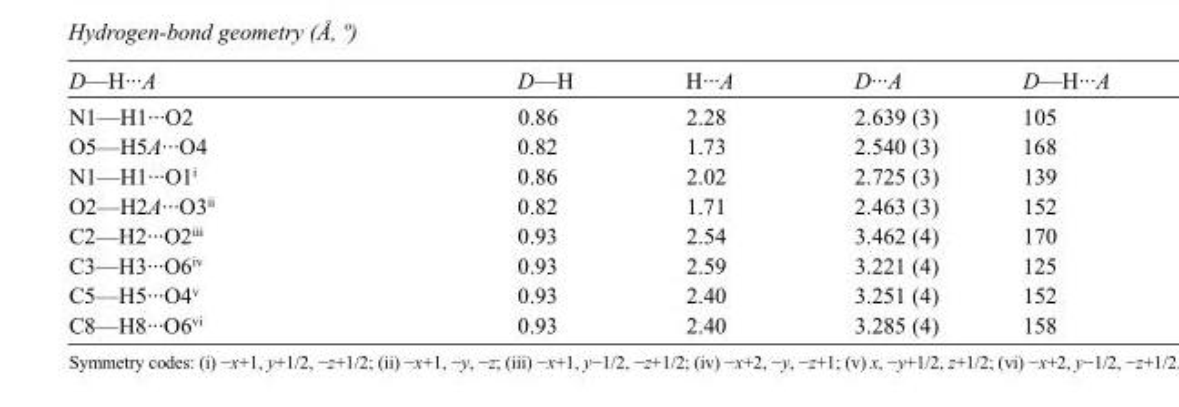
<table><tbody><tr><td>D—H···A</td><td>D—H</td><td>H···A</td><td>D···A</td><td>D—H···A</td></tr><tr><td>N1—H1···O2</td><td>0.86</td><td>2.28</td><td>2.639 (3)</td><td>105</td></tr><tr><td>O5—H5A···O4</td><td>0.82</td><td>1.73</td><td>2.540 (3)</td><td>168</td></tr><tr><td>N1—H1···O1<sup>i</sup></td><td>0.86</td><td>2.02</td><td>2.725 (3)</td><td>139</td></tr><tr><td>O2—H2A···O3<sup>ii</sup></td><td>0.82</td><td>1.71</td><td>2.463 (3)</td><td>152</td></tr><tr><td>C2—H2···O2<sup>iii</sup></td><td>0.93</td><td>2.54</td><td>3.462 (4)</td><td>170</td></tr><tr><td>C3—H3···O6<sup>iv</sup></td><td>0.93</td><td>2.59</td><td>3.221 (4)</td><td>125</td></tr><tr><td>C5—H5···O4<sup>v</sup></td><td>0.93</td><td>2.40</td><td>3.251 (4)</td><td>152</td></tr><tr><td>C8—H8···O6<sup>vi</sup></td><td>0.93</td><td>2.40</td><td>3.285 (4)</td><td>158</td></tr></tbody></table>